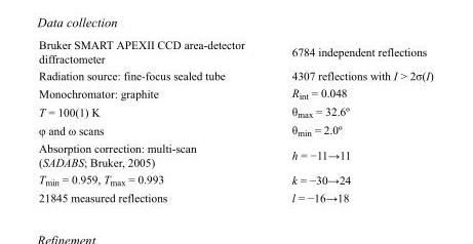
<table><tbody><tr><td>Bruker SMART APEXII CCD area-detector diffractometer</td><td>6784 independent reflections</td></tr><tr><td>Radiation source: fine-focus sealed tube</td><td>4307 reflections with I &gt; 2σ(I)</td></tr><tr><td>Monochromator: graphite</td><td>R<sub>int</sub> = 0.048</td></tr><tr><td>T = 100(1) K</td><td>θ<sub>max</sub> = 32.6º</td></tr><tr><td>φ and ω scans</td><td>θ<sub>min</sub> = 2.0º</td></tr><tr><td>Absorption correction: multi-scan (SADABS; Bruker, 2005)</td><td>h = −11→11</td></tr><tr><td>T<sub>min</sub> = 0.959, T<sub>max</sub> = 0.993</td><td>k = −30→24</td></tr><tr><td>21845 measured reflections</td><td>l = −16→18</td></tr></tbody></table>